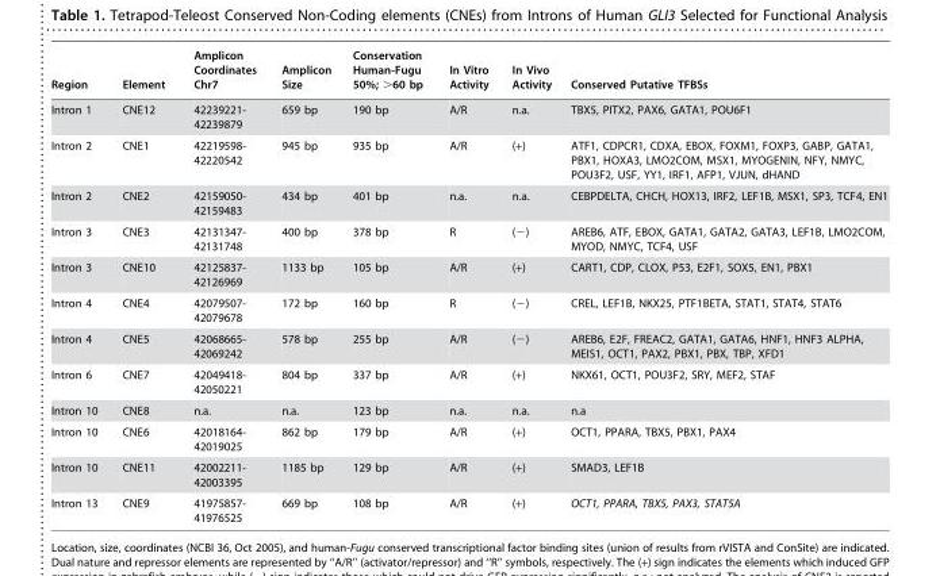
<table><thead><tr><td>Region</td><td>Element</td><td>Amplicon Coordinates Chr7</td><td>Amplicon Size</td><td>Conservation Human-Fugu 50%; &gt;60 bp</td><td>In Vitro Activity</td><td>In Vivo Activity</td><td>Conserved Putative TFBSs</td></tr></thead><tbody><tr><td>Intron 1</td><td>CNE12</td><td>42239221- 42239879</td><td>659 bp</td><td>190 bp</td><td>A/R</td><td>n.a.</td><td>TBX5, PITX2, PAX6, GATA1, POU6F1</td></tr><tr><td>Intron 2</td><td>CNE1</td><td>42219598- 42220542</td><td>945 bp</td><td>935 bp</td><td>A/R</td><td>(+)</td><td>ATF1, CDPCR1, CDXA, EBOX, FOXM1, FOXP3, GABP, GATA1, PBX1, HOXA3, LMO2COM, MSX1, MYOGENIN, NFY, NMYC, POU3F2, USF, YY1, IRF1, AFP1, VJUN, dHAND</td></tr><tr><td>Intron 2</td><td>CNE2</td><td>42159050- 42159483</td><td>434 bp</td><td>401 bp</td><td>n.a.</td><td>n.a.</td><td>CEBPDELTA, CHCH, HOX13, IRF2, LEF1B, MSX1, SP3, TCF4, EN1</td></tr><tr><td>Intron 3</td><td>CNE3</td><td>42131347- 42131748</td><td>400 bp</td><td>378 bp</td><td>R</td><td>(−)</td><td>AREB6, ATF, EBOX, GATA1, GATA2, GATA3, LEF1B, LMO2COM, MYOD, NMYC, TCF4, USF</td></tr><tr><td>Intron 3</td><td>CNE10</td><td>42125837- 42126969</td><td>1133 bp</td><td>105 bp</td><td>A/R</td><td>(+)</td><td>CART1, CDP, CLOX, P53, E2F1, SOX5, EN1, PBX1</td></tr><tr><td>Intron 4</td><td>CNE4</td><td>42079507- 42079678</td><td>172 bp</td><td>160 bp</td><td>R</td><td>(−)</td><td>CREL, LEF1B, NKX25, PTF1BETA, STAT1, STAT4, STAT6</td></tr><tr><td>Intron 4</td><td>CNE5</td><td>42068665- 42069242</td><td>578 bp</td><td>255 bp</td><td>A/R</td><td>(−)</td><td>AREB6, E2F, FREAC2, GATA1, GATA6, HNF1, HNF3 ALPHA, MEIS1, OCT1, PAX2, PBX1, PBX, TBP, XFD1</td></tr><tr><td>Intron 6</td><td>CNE7</td><td>42049418- 42050221</td><td>804 bp</td><td>337 bp</td><td>A/R</td><td>(+)</td><td>NKX61, OCT1, POU3F2, SRY, MEF2, STAF</td></tr><tr><td>Intron 10</td><td>CNE8</td><td>n.a.</td><td>n.a.</td><td>123 bp</td><td>n.a.</td><td>n.a.</td><td>n.a</td></tr><tr><td>Intron 10</td><td>CNE6</td><td>42018164- 42019025</td><td>862 bp</td><td>179 bp</td><td>A/R</td><td>(+)</td><td>OCT1, PPARA, TBX5, PBX1, PAX4</td></tr><tr><td>Intron 10</td><td>CNE11</td><td>42002211- 42003395</td><td>1185 bp</td><td>129 bp</td><td>A/R</td><td>(+)</td><td>SMAD3, LEF1B</td></tr><tr><td>Intron 13</td><td>CNE9</td><td>41975857- 41976525</td><td>669 bp</td><td>108 bp</td><td>A/R</td><td>(+)</td><td>OCT1, PPARA, TBX5, PAX3, STAT5A</td></tr></tbody></table>